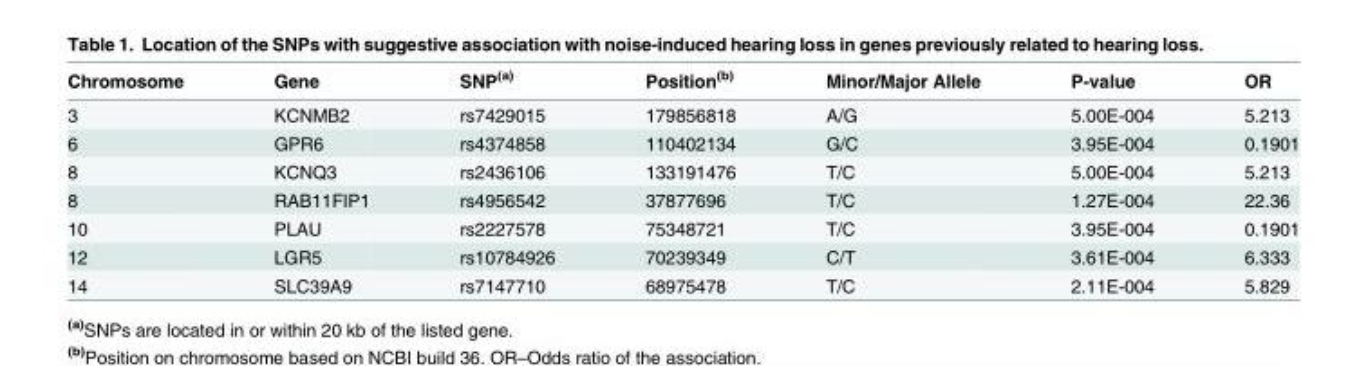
<table><thead><tr><td>Chromosome</td><td>Gene</td><td>SNP<sup>(a)</sup></td><td>Position<sup>(b)</sup></td><td>Minor/Major Allele</td><td>P-value</td><td>OR</td></tr></thead><tbody><tr><td>3</td><td>KCNMB2</td><td>rs7429015</td><td>179856818</td><td>A/G</td><td>5.00E-004</td><td>5.213</td></tr><tr><td>6</td><td>GPR6</td><td>rs4374858</td><td>110402134</td><td>G/C</td><td>3.95E-004</td><td>0.1901</td></tr><tr><td>8</td><td>KCNQ3</td><td>rs2436106</td><td>133191476</td><td>T/C</td><td>5.00E-004</td><td>5.213</td></tr><tr><td>8</td><td>RAB11FIP1</td><td>rs4956542</td><td>37877696</td><td>T/C</td><td>1.27E-004</td><td>22.36</td></tr><tr><td>10</td><td>PLAU</td><td>rs2227578</td><td>75348721</td><td>T/C</td><td>3.95E-004</td><td>0.1901</td></tr><tr><td>12</td><td>LGR5</td><td>rs10784926</td><td>70239349</td><td>C/T</td><td>3.61E-004</td><td>6.333</td></tr><tr><td>14</td><td>SLC39A9</td><td>rs7147710</td><td>68975478</td><td>T/C</td><td>2.11E-004</td><td>5.829</td></tr></tbody></table>